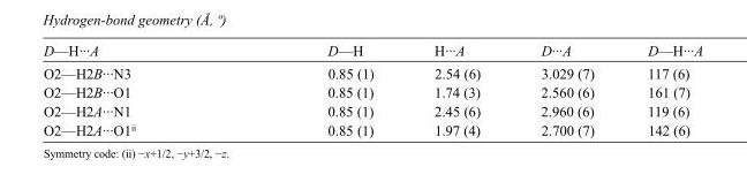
<table><tbody><tr><td>D—H···A</td><td>D—H</td><td>H···A</td><td>D···A</td><td>D—H···A</td></tr><tr><td>O2—H2B···N3</td><td>0.85 (1)</td><td>2.54 (6)</td><td>3.029 (7)</td><td>117 (6)</td></tr><tr><td>O2—H2B···O1</td><td>0.85 (1)</td><td>1.74 (3)</td><td>2.560 (6)</td><td>161 (7)</td></tr><tr><td>O2—H2A···N1</td><td>0.85 (1)</td><td>2.45 (6)</td><td>2.960 (6)</td><td>119 (6)</td></tr><tr><td>O2—H2A···O1<sup>ii</sup></td><td>0.85 (1)</td><td>1.97 (4)</td><td>2.700 (7)</td><td>142 (6)</td></tr></tbody></table>